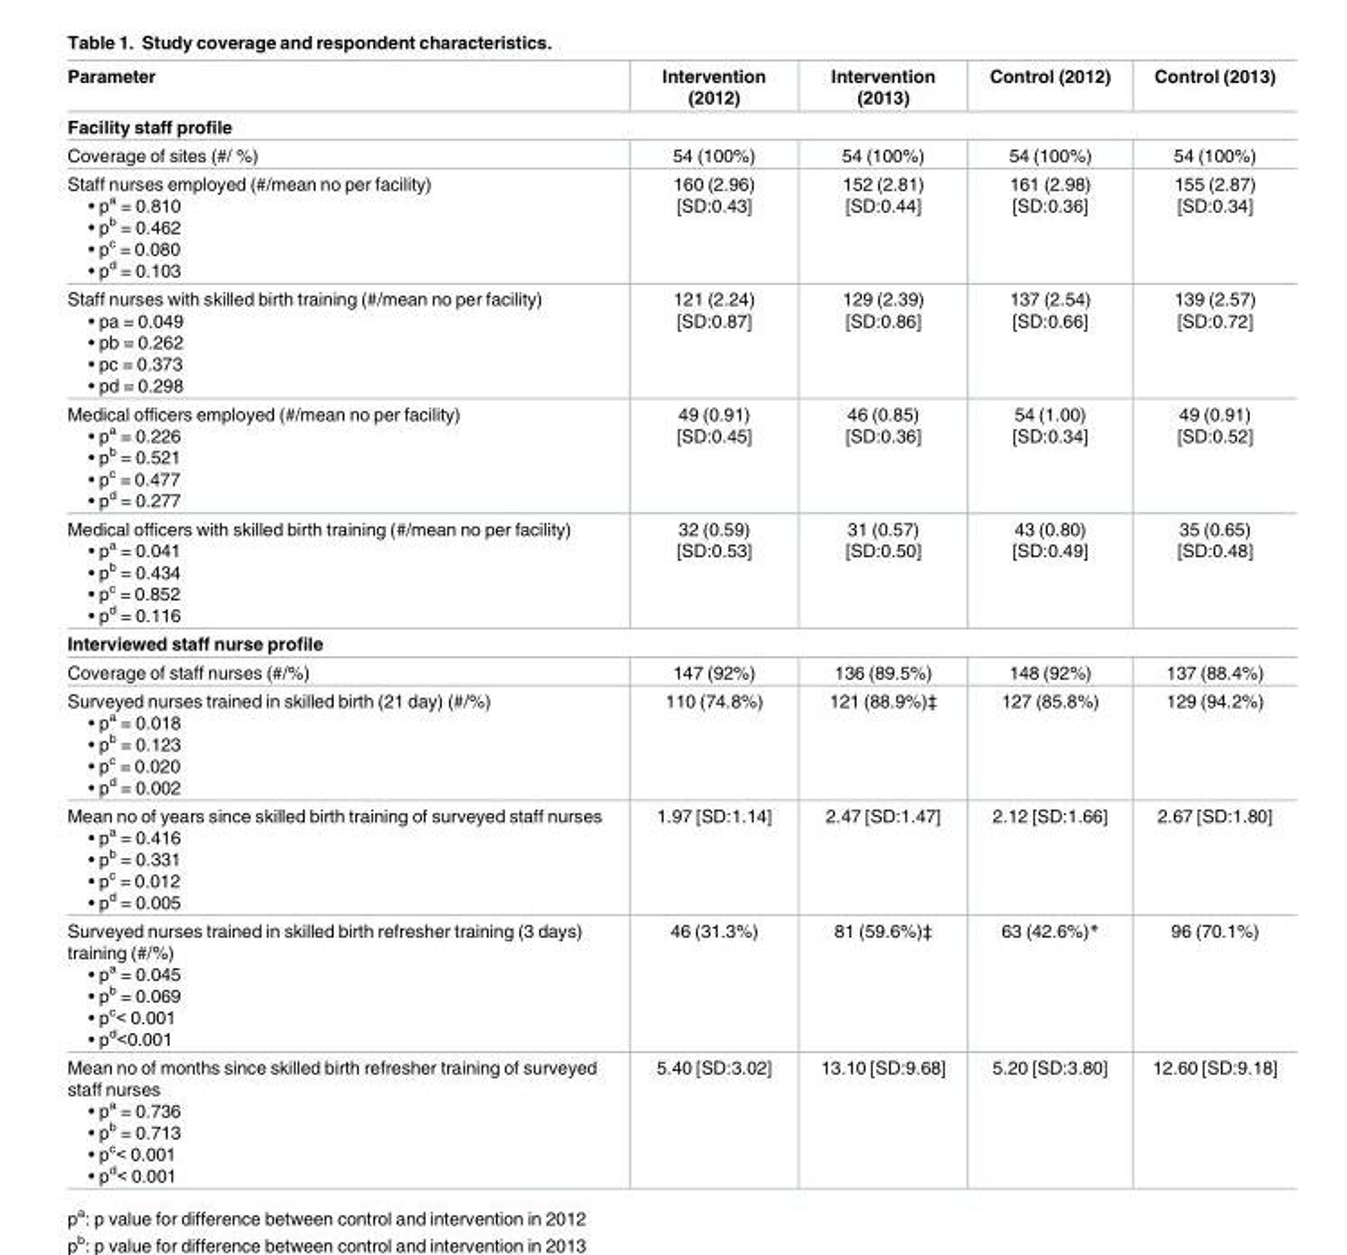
<table><thead><tr><td>Parameter</td><td>Intervention (2012)</td><td>Intervention (2013)</td><td>Control (2012)</td><td>Control (2013)</td></tr></thead><tbody><tr><td colspan="5">Facility staff profile</td></tr><tr><td>Coverage of sites (#/ %)</td><td>54 (100%)</td><td>54 (100%)</td><td>54 (100%)</td><td>54 (100%)</td></tr><tr><td>Staff nurses employed (#/mean no per facility) • p<sup>a</sup> = 0.810 • p<sup>b</sup> = 0.462 • p<sup>c</sup> = 0.080 • p<sup>d</sup> = 0.103</td><td>160 (2.96) [SD:0.43]</td><td>152 (2.81) [SD:0.44]</td><td>161 (2.98) [SD:0.36]</td><td>155 (2.87) [SD:0.34]</td></tr><tr><td>Staff nurses with skilled birth training (#/mean no per facility) • pa = 0.049 • pb = 0.262 • pc = 0.373 • pd = 0.298</td><td>121 (2.24) [SD:0.87]</td><td>129 (2.39) [SD:0.86]</td><td>137 (2.54) [SD:0.66]</td><td>139 (2.57) [SD:0.72]</td></tr><tr><td>Medical officers employed (#/mean no per facility) • p<sup>a</sup> = 0.226 • p<sup>b</sup> = 0.521 • p<sup>c</sup> = 0.477 • p<sup>d</sup> = 0.277</td><td>49 (0.91) [SD:0.45]</td><td>46 (0.85) [SD:0.36]</td><td>54 (1.00) [SD:0.34]</td><td>49 (0.91) [SD:0.52]</td></tr><tr><td>Medical officers with skilled birth training (#/mean no per facility) • p<sup>a</sup> = 0.041 • p<sup>b</sup> = 0.434 • p<sup>c</sup> = 0.852 • p<sup>d</sup> = 0.116</td><td>32 (0.59) [SD:0.53]</td><td>31 (0.57) [SD:0.50]</td><td>43 (0.80) [SD:0.49]</td><td>35 (0.65) [SD:0.48]</td></tr><tr><td colspan="5">Interviewed staff nurse profile</td></tr><tr><td>Coverage of staff nurses (#/%)</td><td>147 (92%)</td><td>136 (89.5%)</td><td>148 (92%)</td><td>137 (88.4%)</td></tr><tr><td>Surveyed nurses trained in skilled birth (21 day) (#/%) • p<sup>a</sup> = 0.018 • p<sup>b</sup> = 0.123 • p<sup>c</sup> = 0.020 • p<sup>d</sup> = 0.002</td><td>110 (74.8%)</td><td>121 (88.9%)‡</td><td>127 (85.8%)</td><td>129 (94.2%)</td></tr><tr><td>Mean no of years since skilled birth training of surveyed staff nurses • p<sup>a</sup> = 0.416 • p<sup>b</sup> = 0.331 • p<sup>c</sup> = 0.012 • p<sup>d</sup> = 0.005</td><td>1.97 [SD:1.14]</td><td>2.47 [SD:1.47]</td><td>2.12 [SD:1.66]</td><td>2.67 [SD:1.80]</td></tr><tr><td>Surveyed nurses trained in skilled birth refresher training (3 days) training (#/%) • p<sup>a</sup> = 0.045 • p<sup>b</sup> = 0.069 • p<sup>c</sup>&lt; 0.001 • p<sup>d</sup>&lt;0.001</td><td>46 (31.3%)</td><td>81 (59.6%)‡</td><td>63 (42.6%)*</td><td>96 (70.1%)</td></tr><tr><td>Mean no of months since skilled birth refresher training of surveyed staff nurses • p<sup>a</sup> = 0.736 • p<sup>b</sup> = 0.713 • p<sup>c</sup>&lt; 0.001 • p<sup>d</sup>&lt; 0.001</td><td>5.40 [SD:3.02]</td><td>13.10 [SD:9.68]</td><td>5.20 [SD:3.80]</td><td>12.60 [SD:9.18]</td></tr></tbody></table>